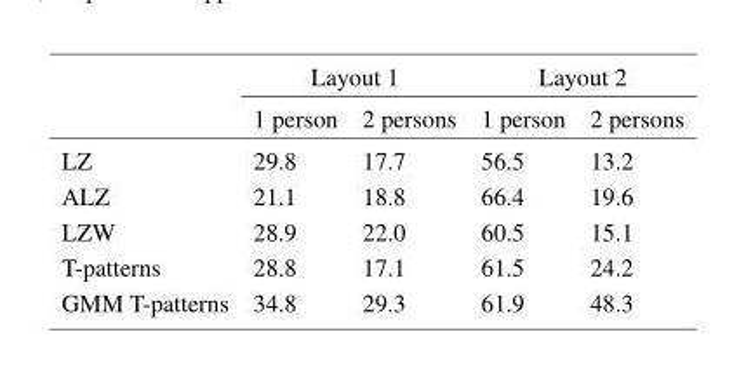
<table><thead><tr><td rowspan="2"></td><td colspan="2">Layout 1</td><td colspan="2">Layout 2</td></tr><tr><td>1 person</td><td>2 persons</td><td>1 person</td><td>2 persons</td></tr></thead><tbody><tr><td>LZ</td><td>29.8</td><td>17.7</td><td>56.5</td><td>13.2</td></tr><tr><td>ALZ</td><td>21.1</td><td>18.8</td><td>66.4</td><td>19.6</td></tr><tr><td>LZW</td><td>28.9</td><td>22.0</td><td>60.5</td><td>15.1</td></tr><tr><td>T-patterns</td><td>28.8</td><td>17.1</td><td>61.5</td><td>24.2</td></tr><tr><td>GMM T-patterns</td><td>34.8</td><td>29.3</td><td>61.9</td><td>48.3</td></tr></tbody></table>